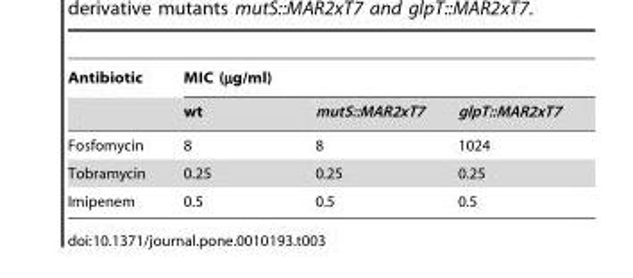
<table><thead><tr><td rowspan="2">Antibiotic</td><td colspan="3">MIC (µg/ml)</td></tr><tr><td>wt</td><td>mutS::MAR2xT7</td><td>glpT::MAR2xT7</td></tr></thead><tbody><tr><td>Fosfomycin</td><td>8</td><td>8</td><td>1024</td></tr><tr><td>Tobramycin</td><td>0.25</td><td>0.25</td><td>0.25</td></tr><tr><td>Imipenem</td><td>0.5</td><td>0.5</td><td>0.5</td></tr></tbody></table>